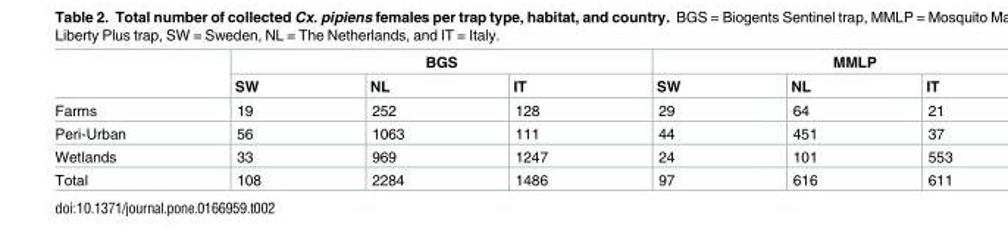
<table><thead><tr><td rowspan="2"></td><td colspan="3">BGS</td><td colspan="3">MMLP</td></tr><tr><td>SW</td><td>NL</td><td>IT</td><td>SW</td><td>NL</td><td>IT</td></tr></thead><tbody><tr><td>Farms</td><td>19</td><td>252</td><td>128</td><td>29</td><td>64</td><td>21</td></tr><tr><td>Peri-Urban</td><td>56</td><td>1063</td><td>111</td><td>44</td><td>451</td><td>37</td></tr><tr><td>Wetlands</td><td>33</td><td>969</td><td>1247</td><td>24</td><td>101</td><td>553</td></tr><tr><td>Total</td><td>108</td><td>2284</td><td>1486</td><td>97</td><td>616</td><td>611</td></tr></tbody></table>